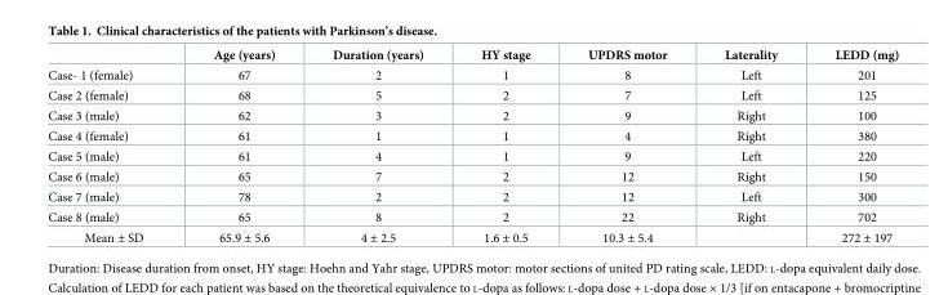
<table><thead><tr><td></td><td>Age (years)</td><td>Duration (years)</td><td>HY stage</td><td>UPDRS motor</td><td>Laterality</td><td>LEDD (mg)</td></tr></thead><tbody><tr><td>Case- 1 (female)</td><td>67</td><td>2</td><td>1</td><td>8</td><td>Left</td><td>201</td></tr><tr><td>Case 2 (female)</td><td>68</td><td>5</td><td>2</td><td>7</td><td>Left</td><td>125</td></tr><tr><td>Case 3 (male)</td><td>62</td><td>3</td><td>2</td><td>9</td><td>Right</td><td>100</td></tr><tr><td>Case 4 (female)</td><td>61</td><td>1</td><td>1</td><td>4</td><td>Right</td><td>380</td></tr><tr><td>Case 5 (male)</td><td>61</td><td>4</td><td>1</td><td>9</td><td>Left</td><td>220</td></tr><tr><td>Case 6 (male)</td><td>65</td><td>7</td><td>2</td><td>12</td><td>Right</td><td>150</td></tr><tr><td>Case 7 (male)</td><td>78</td><td>2</td><td>2</td><td>12</td><td>Left</td><td>300</td></tr><tr><td>Case 8 (male)</td><td>65</td><td>8</td><td>2</td><td>22</td><td>Right</td><td>702</td></tr><tr><td>Mean ± SD</td><td>65.9 ± 5.6</td><td>4 ± 2.5</td><td>1.6 ± 0.5</td><td>10.3 ± 5.4</td><td></td><td>272 ± 197</td></tr></tbody></table>